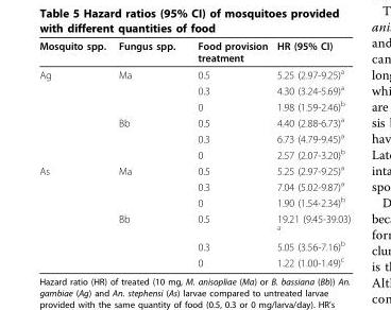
<table><thead><tr><td>Mosquito spp.</td><td>Fungus spp.</td><td>Food provision treatment</td><td>HR (95% CI)</td></tr></thead><tbody><tr><td rowspan="6">Ag</td><td>Ma</td><td>0.5</td><td>5.25 (2.97-9.25)<sup>a</sup></td></tr><tr><td></td><td>0.3</td><td>4.30 (3.24-5.69)<sup>a</sup></td></tr><tr><td></td><td>0</td><td>1.98 (1.59-2.46)<sup>b</sup></td></tr><tr><td>Bb</td><td>0.5</td><td>4.40 (2.88-6.73)<sup>a</sup></td></tr><tr><td></td><td>0.3</td><td>6.73 (4.79-9.45)<sup>a</sup></td></tr><tr><td></td><td>0</td><td>2.57 (2.07-3.20)<sup>b</sup></td></tr><tr><td rowspan="6">As</td><td>Ma</td><td>0.5</td><td>5.25 (2.97-9.25)<sup>a</sup></td></tr><tr><td></td><td>0.3</td><td>7.04 (5.02-9.87)<sup>a</sup></td></tr><tr><td></td><td>0</td><td>1.90 (1.54-2.34)<sup>b</sup></td></tr><tr><td>Bb</td><td>0.5</td><td>19.21 (9.45-39.03) <sup>a</sup></td></tr><tr><td></td><td>0.3</td><td>5.05 (3.56-7.16)<sup>b</sup></td></tr><tr><td></td><td>0</td><td>1.22 (1.00-1.49)<sup>c</sup></td></tr></tbody></table>